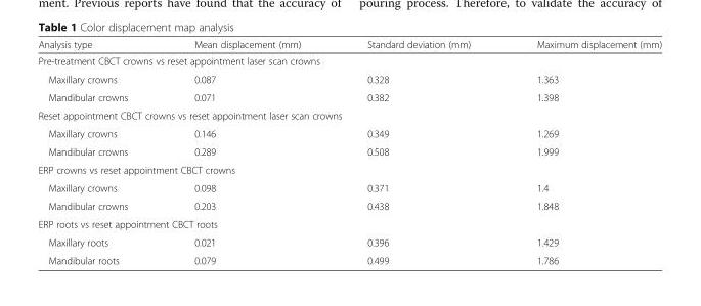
<table><thead><tr><td>Analysis type</td><td>Mean displacement (mm)</td><td>Standard deviation (mm)</td><td>Maximum displacement (mm)</td></tr></thead><tbody><tr><td colspan="4">Pre-treatment CBCT crowns vs reset appointment laser scan crowns</td></tr><tr><td>Maxillary crowns</td><td>0.087</td><td>0.328</td><td>1.363</td></tr><tr><td>Mandibular crowns</td><td>0.071</td><td>0.382</td><td>1.398</td></tr><tr><td colspan="4">Reset appointment CBCT crowns vs reset appointment laser scan crowns</td></tr><tr><td>Maxillary crowns</td><td>0.146</td><td>0.349</td><td>1.269</td></tr><tr><td>Mandibular crowns</td><td>0.289</td><td>0.508</td><td>1.999</td></tr><tr><td colspan="4">ERP crowns vs reset appointment CBCT crowns</td></tr><tr><td>Maxillary crowns</td><td>0.098</td><td>0.371</td><td>1.4</td></tr><tr><td>Mandibular crowns</td><td>0.203</td><td>0.438</td><td>1.848</td></tr><tr><td colspan="4">ERP roots vs reset appointment CBCT roots</td></tr><tr><td>Maxillary roots</td><td>0.021</td><td>0.396</td><td>1.429</td></tr><tr><td>Mandibular roots</td><td>0.079</td><td>0.499</td><td>1.786</td></tr></tbody></table>